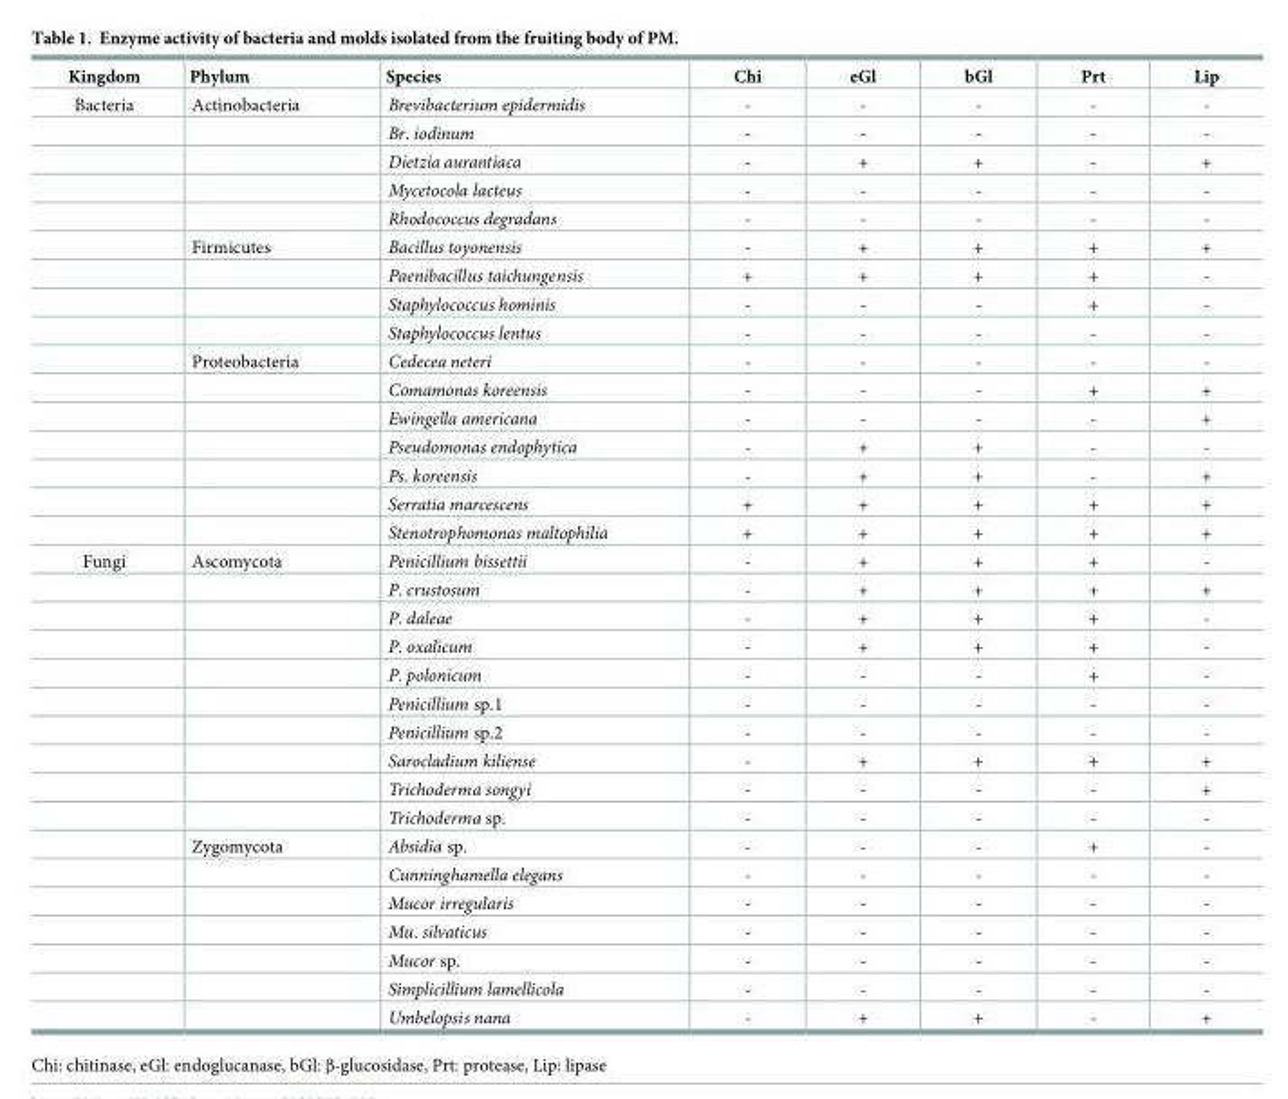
<table><thead><tr><td>Kingdom</td><td>Phylum</td><td>Species</td><td>Chi</td><td>eGl</td><td>bGl</td><td>Prt</td><td>Lip</td></tr></thead><tbody><tr><td rowspan="16">Bacteria</td><td>Actinobacteria</td><td>Brevibacterium epidermidis</td><td>-</td><td>-</td><td>-</td><td>-</td><td>-</td></tr><tr><td></td><td>Br. iodinum</td><td>-</td><td>-</td><td>-</td><td>-</td><td>-</td></tr><tr><td></td><td>Dietzia aurantiaca</td><td>-</td><td>+</td><td>+</td><td>-</td><td>+</td></tr><tr><td></td><td>Mycetocola lacteus</td><td>-</td><td>-</td><td>-</td><td>-</td><td>-</td></tr><tr><td></td><td>Rhodococcus degradans</td><td>-</td><td>-</td><td>-</td><td>-</td><td>-</td></tr><tr><td>Firmicutes</td><td>Bacillus toyonensis</td><td>-</td><td>+</td><td>+</td><td>+</td><td>+</td></tr><tr><td></td><td>Paenibacillus taichungensis</td><td>+</td><td>+</td><td>+</td><td>+</td><td>-</td></tr><tr><td></td><td>Staphylococcus hominis</td><td>-</td><td>-</td><td>-</td><td>+</td><td>-</td></tr><tr><td></td><td>Staphylococcus lentus</td><td>-</td><td>-</td><td>-</td><td>-</td><td>-</td></tr><tr><td>Proteobacteria</td><td>Cedecea neteri</td><td>-</td><td>-</td><td>-</td><td>-</td><td>-</td></tr><tr><td></td><td>Comamonas koreensis</td><td>-</td><td>-</td><td>-</td><td>+</td><td>+</td></tr><tr><td></td><td>Ewingella americana</td><td>-</td><td>-</td><td>-</td><td>-</td><td>+</td></tr><tr><td></td><td>Pseudomonas endophytica</td><td>-</td><td>+</td><td>+</td><td>-</td><td>-</td></tr><tr><td></td><td>Ps. koreensis</td><td>-</td><td>+</td><td>+</td><td>-</td><td>+</td></tr><tr><td></td><td>Serratia marcescens</td><td>+</td><td>+</td><td>+</td><td>+</td><td>+</td></tr><tr><td></td><td>Stenotrophomonas maltophilia</td><td>+</td><td>+</td><td>+</td><td>+</td><td>+</td></tr><tr><td rowspan="17">Fungi</td><td>Ascomycota</td><td>Penicillium bissettii</td><td>-</td><td>+</td><td>+</td><td>+</td><td>-</td></tr><tr><td></td><td>P. crustosum</td><td>-</td><td>+</td><td>+</td><td>+</td><td>+</td></tr><tr><td></td><td>P. daleae</td><td>-</td><td>+</td><td>+</td><td>+</td><td>-</td></tr><tr><td></td><td>P. oxalicum</td><td>-</td><td>+</td><td>+</td><td>+</td><td>-</td></tr><tr><td></td><td>P. polonicum</td><td>-</td><td>-</td><td>-</td><td>+</td><td>-</td></tr><tr><td></td><td>Penicillium sp.1</td><td>-</td><td>-</td><td>-</td><td>-</td><td>-</td></tr><tr><td></td><td>Penicillium sp.2</td><td>-</td><td>-</td><td>-</td><td>-</td><td>-</td></tr><tr><td></td><td>Sarocladium kiliense</td><td>-</td><td>+</td><td>+</td><td>+</td><td>+</td></tr><tr><td></td><td>Trichoderma songyi</td><td>-</td><td>-</td><td>-</td><td>-</td><td>+</td></tr><tr><td></td><td>Trichoderma sp.</td><td>-</td><td>-</td><td>-</td><td>-</td><td>-</td></tr><tr><td>Zygomycota</td><td>Absidia sp.</td><td>-</td><td>-</td><td>-</td><td>+</td><td>-</td></tr><tr><td></td><td>Cunninghamella elegans</td><td>-</td><td>-</td><td>-</td><td>-</td><td>-</td></tr><tr><td></td><td>Mucor irregularis</td><td>-</td><td>-</td><td>-</td><td>-</td><td>-</td></tr><tr><td></td><td>Mu. silvaticus</td><td>-</td><td>-</td><td>-</td><td>-</td><td>-</td></tr><tr><td></td><td>Mucor sp.</td><td>-</td><td>-</td><td>-</td><td>-</td><td>-</td></tr><tr><td></td><td>Simplicillium lamellicola</td><td>-</td><td>-</td><td>-</td><td>-</td><td>-</td></tr><tr><td></td><td>Umbelopsis nana</td><td>-</td><td>+</td><td>+</td><td>-</td><td>+</td></tr></tbody></table>